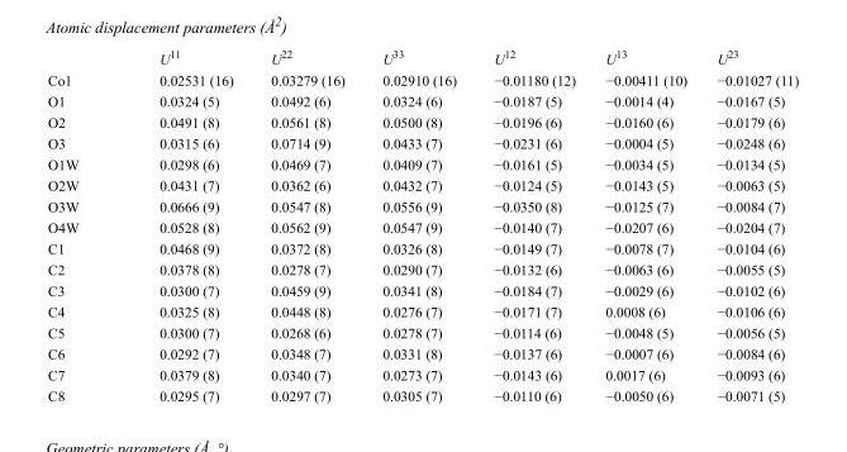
<table><thead><tr><td></td><td>U<sup>11</sup></td><td>U<sup>22</sup></td><td>U<sup>33</sup></td><td>U<sup>12</sup></td><td>U<sup>13</sup></td><td>U<sup>23</sup></td></tr></thead><tbody><tr><td>Co1</td><td>0.02531 (16)</td><td>0.03279 (16)</td><td>0.02910 (16)</td><td>−0.01180 (12)</td><td>−0.00411 (10)</td><td>−0.01027 (11)</td></tr><tr><td>O1</td><td>0.0324 (5)</td><td>0.0492 (6)</td><td>0.0324 (6)</td><td>−0.0187 (5)</td><td>−0.0014 (4)</td><td>−0.0167 (5)</td></tr><tr><td>O2</td><td>0.0491 (8)</td><td>0.0561 (8)</td><td>0.0500 (8)</td><td>−0.0196 (6)</td><td>−0.0160 (6)</td><td>−0.0179 (6)</td></tr><tr><td>O3</td><td>0.0315 (6)</td><td>0.0714 (9)</td><td>0.0433 (7)</td><td>−0.0231 (6)</td><td>−0.0004 (5)</td><td>−0.0248 (6)</td></tr><tr><td>O1W</td><td>0.0298 (6)</td><td>0.0469 (7)</td><td>0.0409 (7)</td><td>−0.0161 (5)</td><td>−0.0034 (5)</td><td>−0.0134 (5)</td></tr><tr><td>O2W</td><td>0.0431 (7)</td><td>0.0362 (6)</td><td>0.0432 (7)</td><td>−0.0124 (5)</td><td>−0.0143 (5)</td><td>−0.0063 (5)</td></tr><tr><td>O3W</td><td>0.0666 (9)</td><td>0.0547 (8)</td><td>0.0556 (9)</td><td>−0.0350 (8)</td><td>−0.0125 (7)</td><td>−0.0084 (7)</td></tr><tr><td>O4W</td><td>0.0528 (8)</td><td>0.0562 (9)</td><td>0.0547 (9)</td><td>−0.0140 (7)</td><td>−0.0207 (6)</td><td>−0.0204 (7)</td></tr><tr><td>C1</td><td>0.0468 (9)</td><td>0.0372 (8)</td><td>0.0326 (8)</td><td>−0.0149 (7)</td><td>−0.0078 (7)</td><td>−0.0104 (6)</td></tr><tr><td>C2</td><td>0.0378 (8)</td><td>0.0278 (7)</td><td>0.0290 (7)</td><td>−0.0132 (6)</td><td>−0.0063 (6)</td><td>−0.0055 (5)</td></tr><tr><td>C3</td><td>0.0300 (7)</td><td>0.0459 (9)</td><td>0.0341 (8)</td><td>−0.0184 (7)</td><td>−0.0029 (6)</td><td>−0.0102 (6)</td></tr><tr><td>C4</td><td>0.0325 (8)</td><td>0.0448 (8)</td><td>0.0276 (7)</td><td>−0.0171 (7)</td><td>0.0008 (6)</td><td>−0.0106 (6)</td></tr><tr><td>C5</td><td>0.0300 (7)</td><td>0.0268 (6)</td><td>0.0278 (7)</td><td>−0.0114 (6)</td><td>−0.0048 (5)</td><td>−0.0056 (5)</td></tr><tr><td>C6</td><td>0.0292 (7)</td><td>0.0348 (7)</td><td>0.0331 (8)</td><td>−0.0137 (6)</td><td>−0.0007 (6)</td><td>−0.0084 (6)</td></tr><tr><td>C7</td><td>0.0379 (8)</td><td>0.0340 (7)</td><td>0.0273 (7)</td><td>−0.0143 (6)</td><td>0.0017 (6)</td><td>−0.0093 (6)</td></tr><tr><td>C8</td><td>0.0295 (7)</td><td>0.0297 (7)</td><td>0.0305 (7)</td><td>−0.0110 (6)</td><td>−0.0050 (6)</td><td>−0.0071 (5)</td></tr></tbody></table>